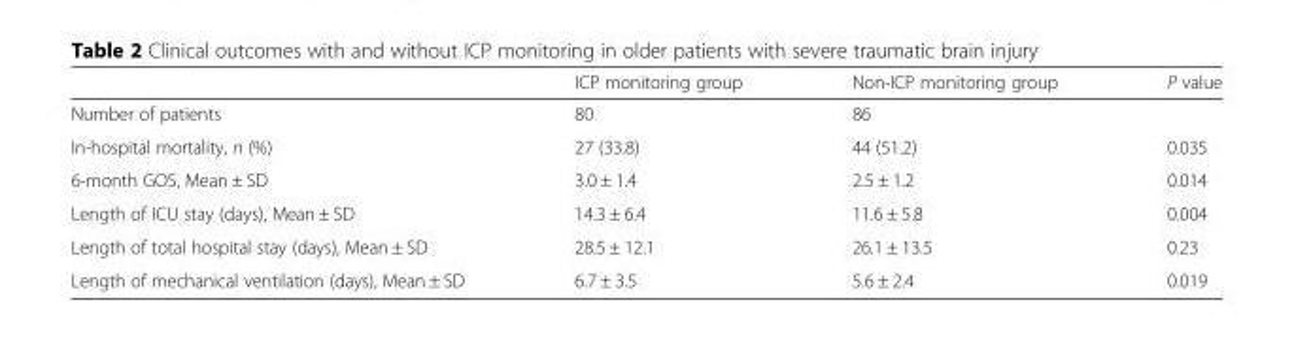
<table><thead><tr><td></td><td>ICP monitoring group</td><td>Non-ICP monitoring group</td><td>P value</td></tr></thead><tbody><tr><td>Number of patients</td><td>80</td><td>86</td><td></td></tr><tr><td>In-hospital mortality, n (%)</td><td>27 (33.8)</td><td>44 (51.2)</td><td>0.035</td></tr><tr><td>6-month GOS, Mean ± SD</td><td>3.0 ± 1.4</td><td>2.5 ± 1.2</td><td>0.014</td></tr><tr><td>Length of ICU stay (days), Mean ± SD</td><td>14.3 ± 6.4</td><td>11.6 ± 5.8</td><td>0.004</td></tr><tr><td>Length of total hospital stay (days), Mean ± SD</td><td>28.5 ± 12.1</td><td>26.1 ± 13.5</td><td>0.23</td></tr><tr><td>Length of mechanical ventilation (days), Mean ± SD</td><td>6.7 ± 3.5</td><td>5.6 ± 2.4</td><td>0.019</td></tr></tbody></table>